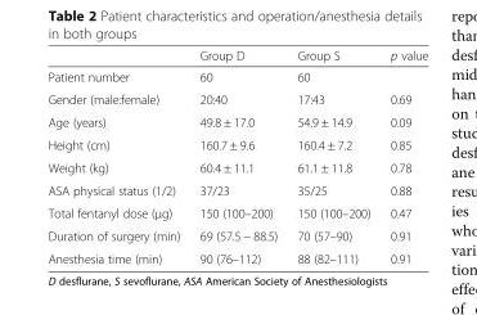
<table><thead><tr><td></td><td>Group D</td><td>Group S</td><td>p value</td></tr></thead><tbody><tr><td>Patient number</td><td>60</td><td>60</td><td></td></tr><tr><td>Gender (male:female)</td><td>20:40</td><td>17:43</td><td>0.69</td></tr><tr><td>Age (years)</td><td>49.8 ± 17.0</td><td>54.9 ± 14.9</td><td>0.09</td></tr><tr><td>Height (cm)</td><td>160.7 ± 9.6</td><td>160.4 ± 7.2</td><td>0.85</td></tr><tr><td>Weight (kg)</td><td>60.4 ± 11.1</td><td>61.1 ± 11.8</td><td>0.78</td></tr><tr><td>ASA physical status (1/2)</td><td>37/23</td><td>35/25</td><td>0.88</td></tr><tr><td>Total fentanyl dose (μg)</td><td>150 (100–200)</td><td>150 (100–200)</td><td>0.47</td></tr><tr><td>Duration of surgery (min)</td><td>69 (57.5 − 88.5)</td><td>70 (57–90)</td><td>0.91</td></tr><tr><td>Anesthesia time (min)</td><td>90 (76–112)</td><td>88 (82–111)</td><td>0.91</td></tr></tbody></table>